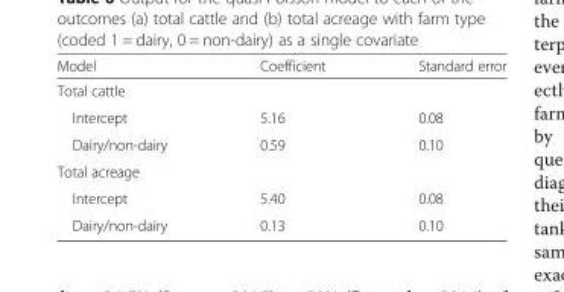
<table><thead><tr><td>Model</td><td>Coefficient</td><td>Standard error</td></tr></thead><tbody><tr><td colspan="3">Total cattle</td></tr><tr><td>Intercept</td><td>5.16</td><td>0.08</td></tr><tr><td>Dairy/non-dairy</td><td>0.59</td><td>0.10</td></tr><tr><td colspan="3">Total acreage</td></tr><tr><td>Intercept</td><td>5.40</td><td>0.08</td></tr><tr><td>Dairy/non-dairy</td><td>0.13</td><td>0.10</td></tr></tbody></table>